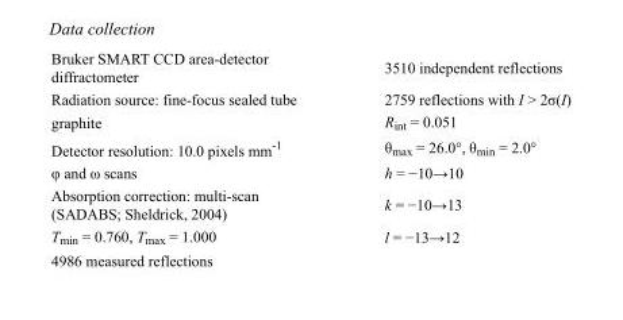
<table><tbody><tr><td>Bruker SMART CCD area-detector diffractometer</td><td>3510 independent reflections</td></tr><tr><td>Radiation source: fine-focus sealed tube</td><td>2759 reflections with I &gt; 2σ(I)</td></tr><tr><td>graphite</td><td>R<sub>int</sub> = 0.051</td></tr><tr><td>Detector resolution: 10.0 pixels mm<sup>-1</sup></td><td>θ<sub>max</sub> = 26.0°, θ<sub>min</sub> = 2.0°</td></tr><tr><td>φ and ω scans</td><td>h = −10→10</td></tr><tr><td>Absorption correction: multi-scan (SADABS; Sheldrick, 2004)</td><td>k = −10→13</td></tr><tr><td>T<sub>min</sub> = 0.760, T<sub>max</sub> = 1.000</td><td>l = −13→12</td></tr><tr><td>4986 measured reflections</td><td></td></tr></tbody></table>